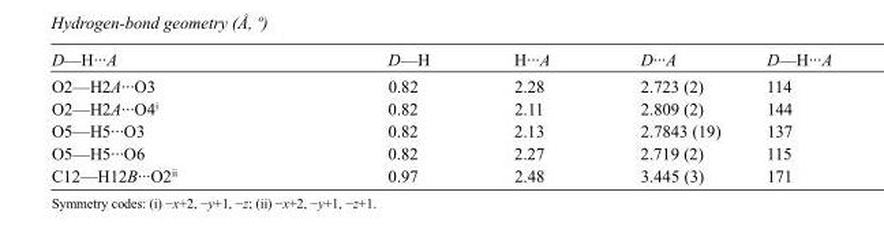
<table><tbody><tr><td>D—H···A</td><td>D—H</td><td>H···A</td><td>D···A</td><td>D—H···A</td></tr><tr><td>O2—H2A···O3</td><td>0.82</td><td>2.28</td><td>2.723 (2)</td><td>114</td></tr><tr><td>O2—H2A···O4<sup>i</sup></td><td>0.82</td><td>2.11</td><td>2.809 (2)</td><td>144</td></tr><tr><td>O5—H5···O3</td><td>0.82</td><td>2.13</td><td>2.7843 (19)</td><td>137</td></tr><tr><td>O5—H5···O6</td><td>0.82</td><td>2.27</td><td>2.719 (2)</td><td>115</td></tr><tr><td>C12—H12B···O2<sup>ii</sup></td><td>0.97</td><td>2.48</td><td>3.445 (3)</td><td>171</td></tr></tbody></table>